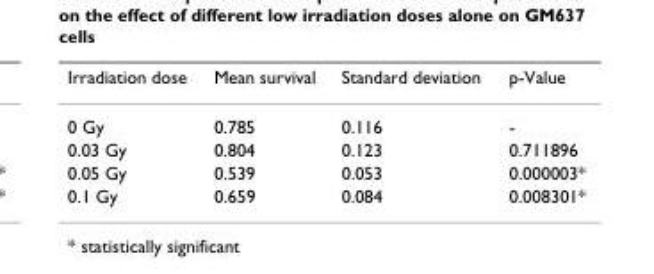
<table><thead><tr><td>Irradiation dose</td><td>Mean survival</td><td>Standard deviation</td><td>p-Value</td></tr></thead><tbody><tr><td>0 Gy</td><td>0.785</td><td>0.116</td><td>-</td></tr><tr><td>0.03 Gy</td><td>0.804</td><td>0.123</td><td>0.711896</td></tr><tr><td>0.05 Gy</td><td>0.539</td><td>0.053</td><td>0.000003*</td></tr><tr><td>0.1 Gy</td><td>0.659</td><td>0.084</td><td>0.008301*</td></tr></tbody></table>